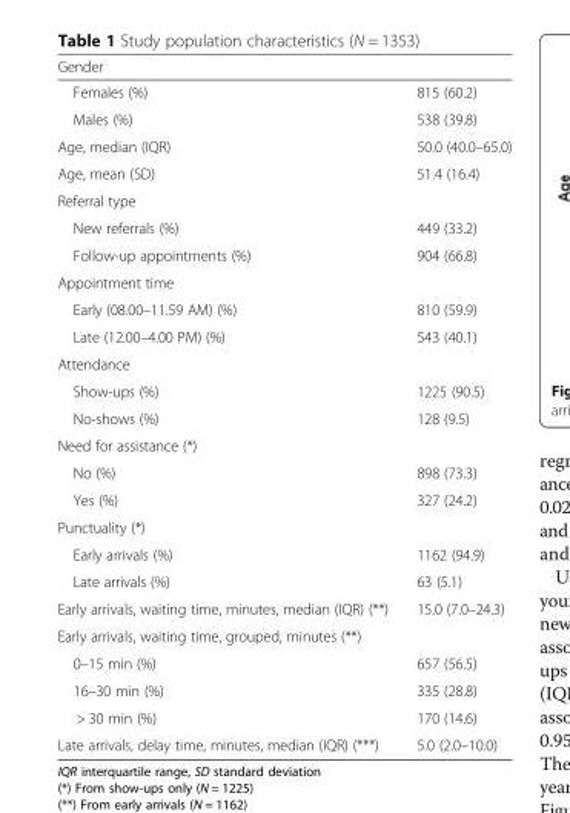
<table><thead><tr><td>Gender</td><td></td></tr></thead><tbody><tr><td>Females (%)</td><td>815 (60.2)</td></tr><tr><td>Males (%)</td><td>538 (39.8)</td></tr><tr><td>Age, median (IQR)</td><td>50.0 (40.0–65.0)</td></tr><tr><td>Age, mean (SD)</td><td>51.4 (16.4)</td></tr><tr><td colspan="2">Referral type</td></tr><tr><td>New referrals (%)</td><td>449 (33.2)</td></tr><tr><td>Follow-up appointments (%)</td><td>904 (66.8)</td></tr><tr><td colspan="2">Appointment time</td></tr><tr><td>Early (08.00–11.59 AM) (%)</td><td>810 (59.9)</td></tr><tr><td>Late (12.00–4.00 PM) (%)</td><td>543 (40.1)</td></tr><tr><td colspan="2">Attendance</td></tr><tr><td>Show-ups (%)</td><td>1225 (90.5)</td></tr><tr><td>No-shows (%)</td><td>128 (9.5)</td></tr><tr><td colspan="2">Need for assistance (*)</td></tr><tr><td>No (%)</td><td>898 (73.3)</td></tr><tr><td>Yes (%)</td><td>327 (24.2)</td></tr><tr><td colspan="2">Punctuality (*)</td></tr><tr><td>Early arrivals (%)</td><td>1162 (94.9)</td></tr><tr><td>Late arrivals (%)</td><td>63 (5.1)</td></tr><tr><td>Early arrivals, waiting time, minutes, median (IQR) (**)</td><td>15.0 (7.0–24.3)</td></tr><tr><td colspan="2">Early arrivals, waiting time, grouped, minutes (**)</td></tr><tr><td>0–15 min (%)</td><td>657 (56.5)</td></tr><tr><td>16–30 min (%)</td><td>335 (28.8)</td></tr><tr><td>&gt; 30 min (%)</td><td>170 (14.6)</td></tr><tr><td>Late arrivals, delay time, minutes, median (IQR) (***)</td><td>5.0 (2.0–10.0)</td></tr></tbody></table>